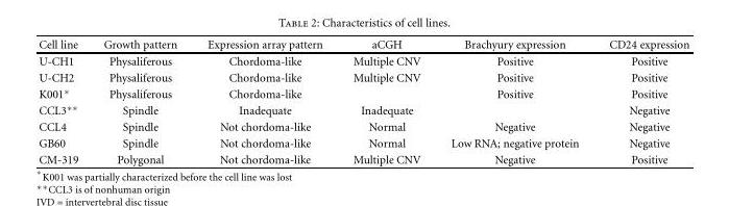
<table><thead><tr><td>Cell line</td><td>Growth pattern</td><td>Expression array pattern</td><td>aCGH</td><td>Brachyury expression</td><td>CD24 expression</td></tr></thead><tbody><tr><td>U-CH1</td><td>Physaliferous</td><td>Chordoma-like</td><td>Multiple CNV</td><td>Positive</td><td>Positive</td></tr><tr><td>U-CH2</td><td>Physaliferous</td><td>Chordoma-like</td><td>Multiple CNV</td><td>Positive</td><td>Positive</td></tr><tr><td>K001∗</td><td>Physaliferous</td><td>Chordoma-like</td><td></td><td>Positive</td><td>Positive</td></tr><tr><td>CCL3∗∗</td><td>Spindle</td><td>Inadequate</td><td>Inadequate</td><td></td><td>Negative</td></tr><tr><td>CCL4</td><td>Spindle</td><td>Not chordoma-like</td><td>Normal</td><td>Negative</td><td>Negative</td></tr><tr><td>GB60</td><td>Spindle</td><td>Not chordoma-like</td><td>Normal</td><td>Low RNA; negative protein</td><td>Negative</td></tr><tr><td>CM-319</td><td>Polygonal</td><td>Not chordoma-like</td><td>Multiple CNV</td><td>Negative</td><td>Positive</td></tr></tbody></table>